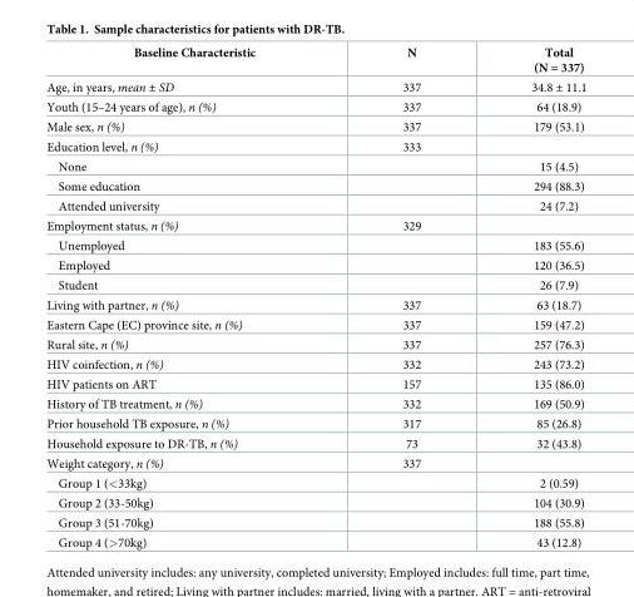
<table><thead><tr><td>Baseline Characteristic</td><td>N</td><td>Total (N = 337)</td></tr></thead><tbody><tr><td>Age, in years, mean ± SD</td><td>337</td><td>34.8 ± 11.1</td></tr><tr><td>Youth (15–24 years of age), n (%)</td><td>337</td><td>64 (18.9)</td></tr><tr><td>Male sex, n (%)</td><td>337</td><td>179 (53.1)</td></tr><tr><td>Education level, n (%)</td><td>333</td><td></td></tr><tr><td>None</td><td></td><td>15 (4.5)</td></tr><tr><td>Some education</td><td></td><td>294 (88.3)</td></tr><tr><td>Attended university</td><td></td><td>24 (7.2)</td></tr><tr><td>Employment status, n (%)</td><td>329</td><td></td></tr><tr><td>Unemployed</td><td></td><td>183 (55.6)</td></tr><tr><td>Employed</td><td></td><td>120 (36.5)</td></tr><tr><td>Student</td><td></td><td>26 (7.9)</td></tr><tr><td>Living with partner, n (%)</td><td>337</td><td>63 (18.7)</td></tr><tr><td>Eastern Cape (EC) province site, n (%)</td><td>337</td><td>159 (47.2)</td></tr><tr><td>Rural site, n (%)</td><td>337</td><td>257 (76.3)</td></tr><tr><td>HIV coinfection, n (%)</td><td>332</td><td>243 (73.2)</td></tr><tr><td>HIV patients on ART</td><td>157</td><td>135 (86.0)</td></tr><tr><td>History of TB treatment, n (%)</td><td>332</td><td>169 (50.9)</td></tr><tr><td>Prior household TB exposure, n (%)</td><td>317</td><td>85 (26.8)</td></tr><tr><td>Household exposure to DR-TB, n (%)</td><td>73</td><td>32 (43.8)</td></tr><tr><td>Weight category, n (%)</td><td>337</td><td></td></tr><tr><td>Group 1 (&lt;33kg)</td><td></td><td>2 (0.59)</td></tr><tr><td>Group 2 (33-50kg)</td><td></td><td>104 (30.9)</td></tr><tr><td>Group 3 (51-70kg)</td><td></td><td>188 (55.8)</td></tr><tr><td>Group 4 (&gt;70kg)</td><td></td><td>43 (12.8)</td></tr></tbody></table>